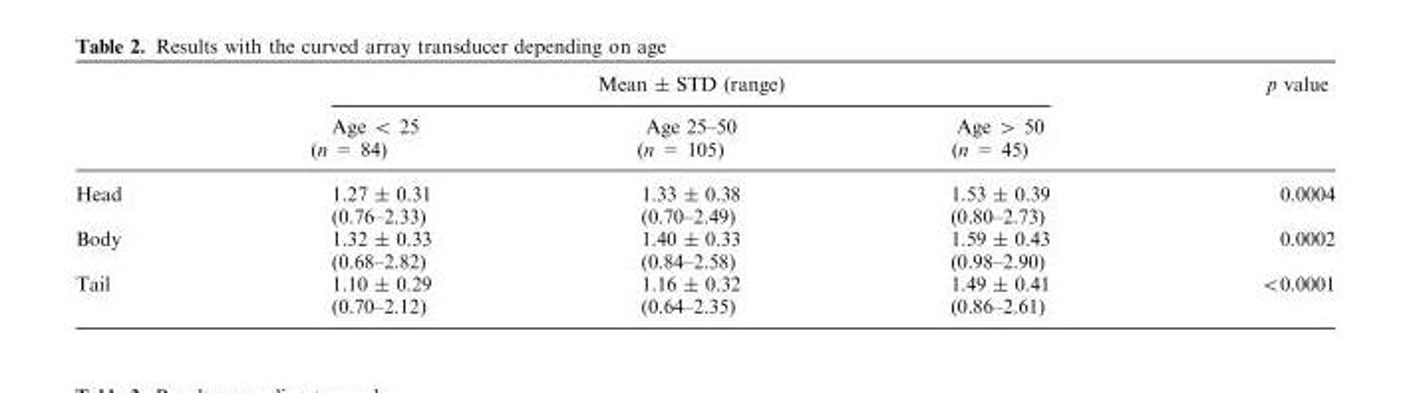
<table><thead><tr><td rowspan="2"></td><td colspan="3">Mean ± STD (range)</td><td rowspan="2">p value</td></tr><tr><td>Age &lt; 25 (n = 84)</td><td>Age 25–50 (n = 105)</td><td>Age &gt; 50 (n = 45)</td></tr></thead><tbody><tr><td>Head</td><td>1.27 ± 0.31 (0.76–2.33)</td><td>1.33 ± 0.38 (0.70–2.49)</td><td>1.53 ± 0.39 (0.80–2.73)</td><td>0.0004</td></tr><tr><td>Body</td><td>1.32 ± 0.33 (0.68–2.82)</td><td>1.40 ± 0.33 (0.84–2.58)</td><td>1.59 ± 0.43 (0.98–2.90)</td><td>0.0002</td></tr><tr><td>Tail</td><td>1.10 ± 0.29 (0.70–2.12)</td><td>1.16 ± 0.32 (0.64–2.35)</td><td>1.49 ± 0.41 (0.86–2.61)</td><td>&lt;0.0001</td></tr></tbody></table>